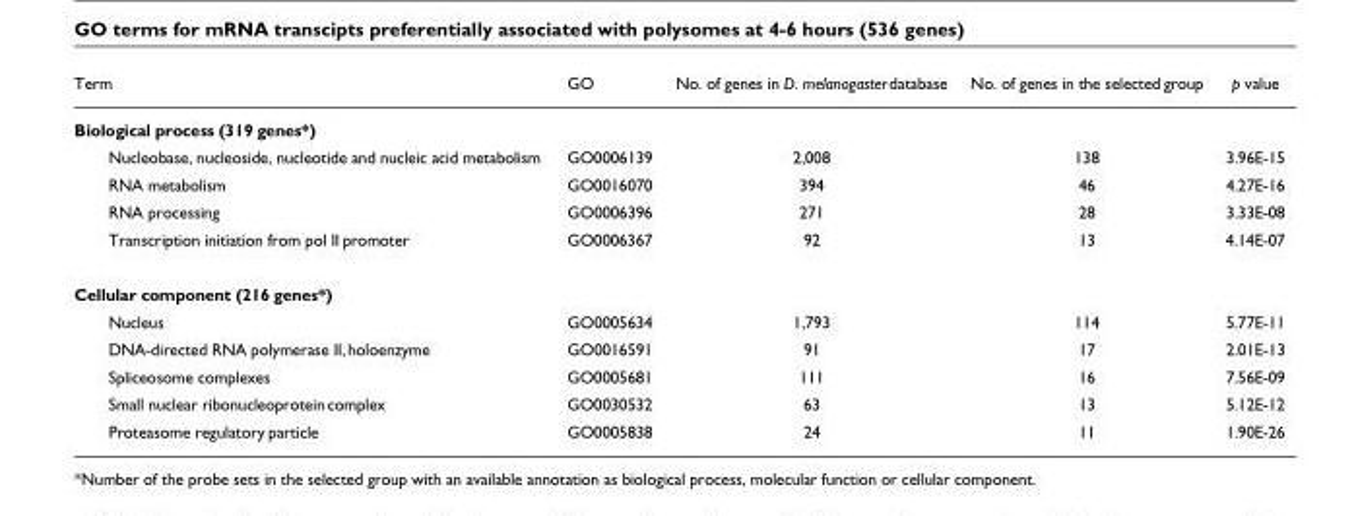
<table><thead><tr><td>Term</td><td>GO</td><td>No. of genes in D. melanogaster database</td><td>No. of genes in the selected group</td><td>p value</td></tr></thead><tbody><tr><td colspan="5">Biological process (319 genes*)</td></tr><tr><td>Nucleobase, nucleoside, nucleotide and nucleic acid metabolism</td><td>GO0006139</td><td>2,008</td><td>138</td><td>3.96E-15</td></tr><tr><td>RNA metabolism</td><td>GO0016070</td><td>394</td><td>46</td><td>4.27E-16</td></tr><tr><td>RNA processing</td><td>GO0006396</td><td>271</td><td>28</td><td>3.33E-08</td></tr><tr><td>Transcription initiation from pol II promoter</td><td>GO0006367</td><td>92</td><td>13</td><td>4.14E-07</td></tr><tr><td colspan="5">Cellular component (216 genes*)</td></tr><tr><td>Nucleus</td><td>GO0005634</td><td>1,793</td><td>114</td><td>5.77E-11</td></tr><tr><td>DNA-directed RNA polymerase II, holoenzyme</td><td>GO0016591</td><td>91</td><td>17</td><td>2.01E-13</td></tr><tr><td>Spliceosome complexes</td><td>GO0005681</td><td>111</td><td>16</td><td>7.56E-09</td></tr><tr><td>Small nuclear ribonucleoprotein complex</td><td>GO0030532</td><td>63</td><td>13</td><td>5.12E-12</td></tr><tr><td>Proteasome regulatory particle</td><td>GO0005838</td><td>24</td><td>11</td><td>1.90E-26</td></tr></tbody></table>